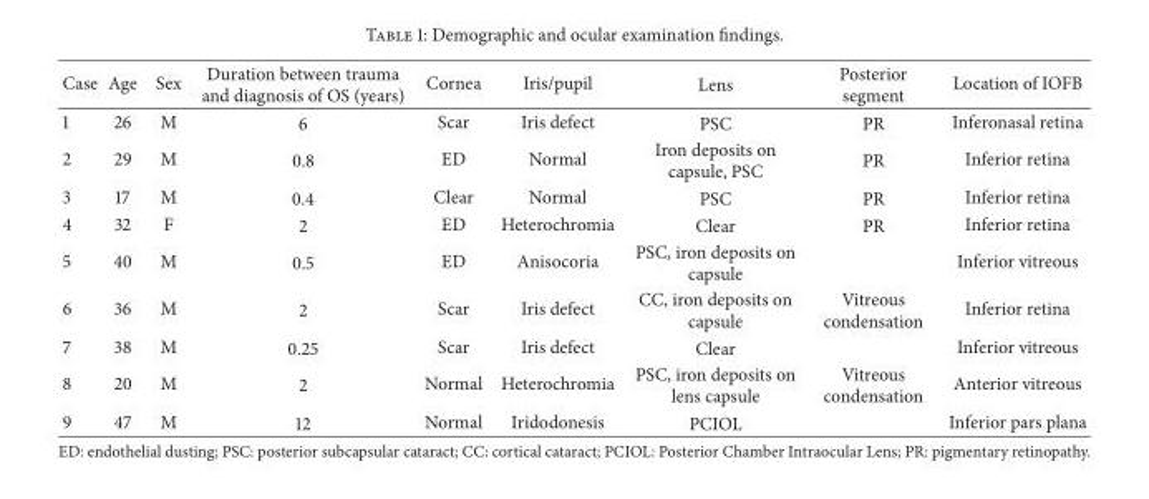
<table><thead><tr><td>Case</td><td>Age</td><td>Sex</td><td>Duration between trauma and diagnosis of OS (years)</td><td>Cornea</td><td>Iris/pupil</td><td>Lens</td><td>Posterior segment</td><td>Location of IOFB</td></tr></thead><tbody><tr><td>1</td><td>26</td><td>M</td><td>6</td><td>Scar</td><td>Iris defect</td><td>PSC</td><td>PR</td><td>Inferonasal retina</td></tr><tr><td>2</td><td>29</td><td>M</td><td>0.8</td><td>ED</td><td>Normal</td><td>Iron deposits on capsule, PSC</td><td>PR</td><td>Inferior retina</td></tr><tr><td>3</td><td>17</td><td>M</td><td>0.4</td><td>Clear</td><td>Normal</td><td>PSC</td><td>PR</td><td>Inferior retina</td></tr><tr><td>4</td><td>32</td><td>F</td><td>2</td><td>ED</td><td>Heterochromia</td><td>Clear</td><td>PR</td><td>Inferior retina</td></tr><tr><td>5</td><td>40</td><td>M</td><td>0.5</td><td>ED</td><td>Anisocoria</td><td>PSC, iron deposits on capsule</td><td></td><td>Inferior vitreous</td></tr><tr><td>6</td><td>36</td><td>M</td><td>2</td><td>Scar</td><td>Iris defect</td><td>CC, iron deposits on capsule</td><td>Vitreous condensation</td><td>Inferior retina</td></tr><tr><td>7</td><td>38</td><td>M</td><td>0.25</td><td>Scar</td><td>Iris defect</td><td>Clear</td><td></td><td>Inferior vitreous</td></tr><tr><td>8</td><td>20</td><td>M</td><td>2</td><td>Normal</td><td>Heterochromia</td><td>PSC, iron deposits on lens capsule</td><td>Vitreous condensation</td><td>Anterior vitreous</td></tr><tr><td>9</td><td>47</td><td>M</td><td>12</td><td>Normal</td><td>Iridodonesis</td><td>PCIOL</td><td></td><td>Inferior pars plana</td></tr></tbody></table>